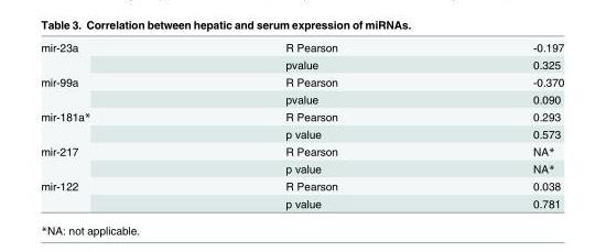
<table><tbody><tr><td rowspan="2">mir-23a</td><td>R Pearson</td><td>-0.197</td></tr><tr><td>pvalue</td><td>0.325</td></tr><tr><td rowspan="2">mir-99a</td><td>R Pearson</td><td>-0.370</td></tr><tr><td>pvalue</td><td>0.090</td></tr><tr><td rowspan="2">mir-181a*</td><td>R Pearson</td><td>0.293</td></tr><tr><td>p value</td><td>0.573</td></tr><tr><td rowspan="2">mir-217</td><td>R Pearson</td><td>NA*</td></tr><tr><td>p value</td><td>NA*</td></tr><tr><td rowspan="2">mir-122</td><td>R Pearson</td><td>0.038</td></tr><tr><td>p value</td><td>0.781</td></tr></tbody></table>